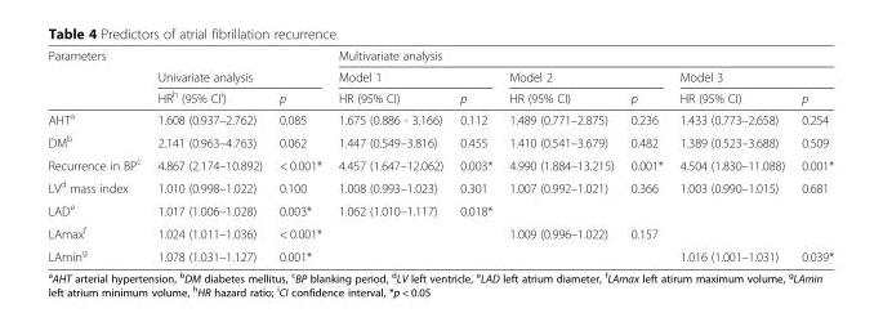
<table><thead><tr><td rowspan="3">Parameters</td><td></td><td></td><td colspan="6">Multivariate analysis</td></tr><tr><td colspan="2">Univariate analysis</td><td colspan="2">Model 1</td><td colspan="2">Model 2</td><td colspan="2">Model 3</td></tr><tr><td>HR<sup>h</sup> (95% CI<sup>i</sup>)</td><td>p</td><td>HR (95% CI)</td><td>p</td><td>HR (95% CI)</td><td>p</td><td>HR (95% CI)</td><td>p</td></tr></thead><tbody><tr><td>AHT<sup>a</sup></td><td>1.608 (0.937–2.762)</td><td>0.085</td><td>1.675 (0.886 - 3.166)</td><td>0.112</td><td>1.489 (0.771–2.875)</td><td>0.236</td><td>1.433 (0.773–2.658)</td><td>0.254</td></tr><tr><td>DM<sup>b</sup></td><td>2.141 (0.963–4.763)</td><td>0.062</td><td>1.447 (0.549–3.816)</td><td>0.455</td><td>1.410 (0.541–3.679)</td><td>0.482</td><td>1.389 (0.523–3.688)</td><td>0.509</td></tr><tr><td>Recurrence in BP<sup>c</sup></td><td>4.867 (2.174–10.892)</td><td>&lt; 0.001*</td><td>4.457 (1.647–12.062)</td><td>0.003*</td><td>4.990 (1.884–13.215)</td><td>0.001*</td><td>4.504 (1.830–11.088)</td><td>0.001*</td></tr><tr><td>LV<sup>d</sup> mass index</td><td>1.010 (0.998–1.022)</td><td>0.100</td><td>1.008 (0.993–1.023)</td><td>0.301</td><td>1.007 (0.992–1.021)</td><td>0.366</td><td>1.003 (0.990–1.015)</td><td>0.681</td></tr><tr><td>LAD<sup>e</sup></td><td>1.017 (1.006–1.028)</td><td>0.003*</td><td>1.062 (1.010–1.117)</td><td>0.018*</td><td></td><td></td><td></td><td></td></tr><tr><td>LAmax<sup>f</sup></td><td>1.024 (1.011–1.036)</td><td>&lt; 0.001*</td><td></td><td></td><td>1.009 (0.996–1.022)</td><td>0.157</td><td></td><td></td></tr><tr><td>LAmin<sup>g</sup></td><td>1.078 (1.031–1.127)</td><td>0.001*</td><td></td><td></td><td></td><td></td><td>1.016 (1.001–1.031)</td><td>0.039*</td></tr></tbody></table>